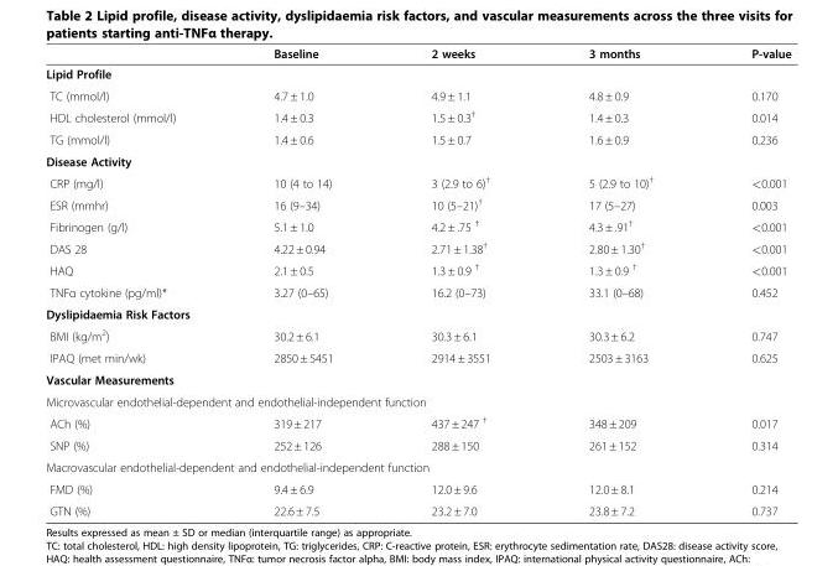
<table><thead><tr><td></td><td>Baseline</td><td>2 weeks</td><td>3 months</td><td>P-value</td></tr></thead><tbody><tr><td colspan="5">Lipid Profile</td></tr><tr><td>TC (mmol/l)</td><td>4.7 ± 1.0</td><td>4.9 ± 1.1</td><td>4.8 ± 0.9</td><td>0.170</td></tr><tr><td>HDL cholesterol (mmol/l)</td><td>1.4 ± 0.3</td><td>1.5 ± 0.3<sup>†</sup></td><td>1.4 ± 0.3</td><td>0.014</td></tr><tr><td>TG (mmol/l)</td><td>1.4 ± 0.6</td><td>1.5 ± 0.7</td><td>1.6 ± 0.9</td><td>0.236</td></tr><tr><td colspan="5">Disease Activity</td></tr><tr><td>CRP (mg/l)</td><td>10 (4 to 14)</td><td>3 (2.9 to 6)<sup>†</sup></td><td>5 (2.9 to 10)<sup>†</sup></td><td>&lt;0.001</td></tr><tr><td>ESR (mmhr)</td><td>16 (9–34)</td><td>10 (5–21)<sup>†</sup></td><td>17 (5–27)</td><td>0.003</td></tr><tr><td>Fibrinogen (g/l)</td><td>5.1 ± 1.0</td><td>4.2 ± .75 <sup>†</sup></td><td>4.3 ± .91<sup>†</sup></td><td>&lt;0.001</td></tr><tr><td>DAS 28</td><td>4.22 ± 0.94</td><td>2.71 ± 1.38<sup>†</sup></td><td>2.80 ± 1.30<sup>†</sup></td><td>&lt;0.001</td></tr><tr><td>HAQ</td><td>2.1 ± 0.5</td><td>1.3 ± 0.9 <sup>†</sup></td><td>1.3 ± 0.9 <sup>†</sup></td><td>&lt;0.001</td></tr><tr><td>TNFα cytokine (pg/ml)*</td><td>3.27 (0–65)</td><td>16.2 (0–73)</td><td>33.1 (0–68)</td><td>0.452</td></tr><tr><td colspan="5">Dyslipidaemia Risk Factors</td></tr><tr><td>BMI (kg/m<sup>2</sup>)</td><td>30.2 ± 6.1</td><td>30.3 ± 6.1</td><td>30.3 ± 6.2</td><td>0.747</td></tr><tr><td>IPAQ (met min/wk)</td><td>2850 ± 5451</td><td>2914 ± 3551</td><td>2503 ± 3163</td><td>0.625</td></tr><tr><td colspan="5">Vascular Measurements</td></tr><tr><td colspan="5">Microvascular endothelial-dependent and endothelial-independent function</td></tr><tr><td>ACh (%)</td><td>319 ± 217</td><td>437 ± 247 <sup>†</sup></td><td>348 ± 209</td><td>0.017</td></tr><tr><td>SNP (%)</td><td>252 ± 126</td><td>288 ± 150</td><td>261 ± 152</td><td>0.314</td></tr><tr><td colspan="5">Macrovascular endothelial-dependent and endothelial-independent function</td></tr><tr><td>FMD (%)</td><td>9.4 ± 6.9</td><td>12.0 ± 9.6</td><td>12.0 ± 8.1</td><td>0.214</td></tr><tr><td>GTN (%)</td><td>22.6 ± 7.5</td><td>23.2 ± 7.0</td><td>23.8 ± 7.2</td><td>0.737</td></tr></tbody></table>